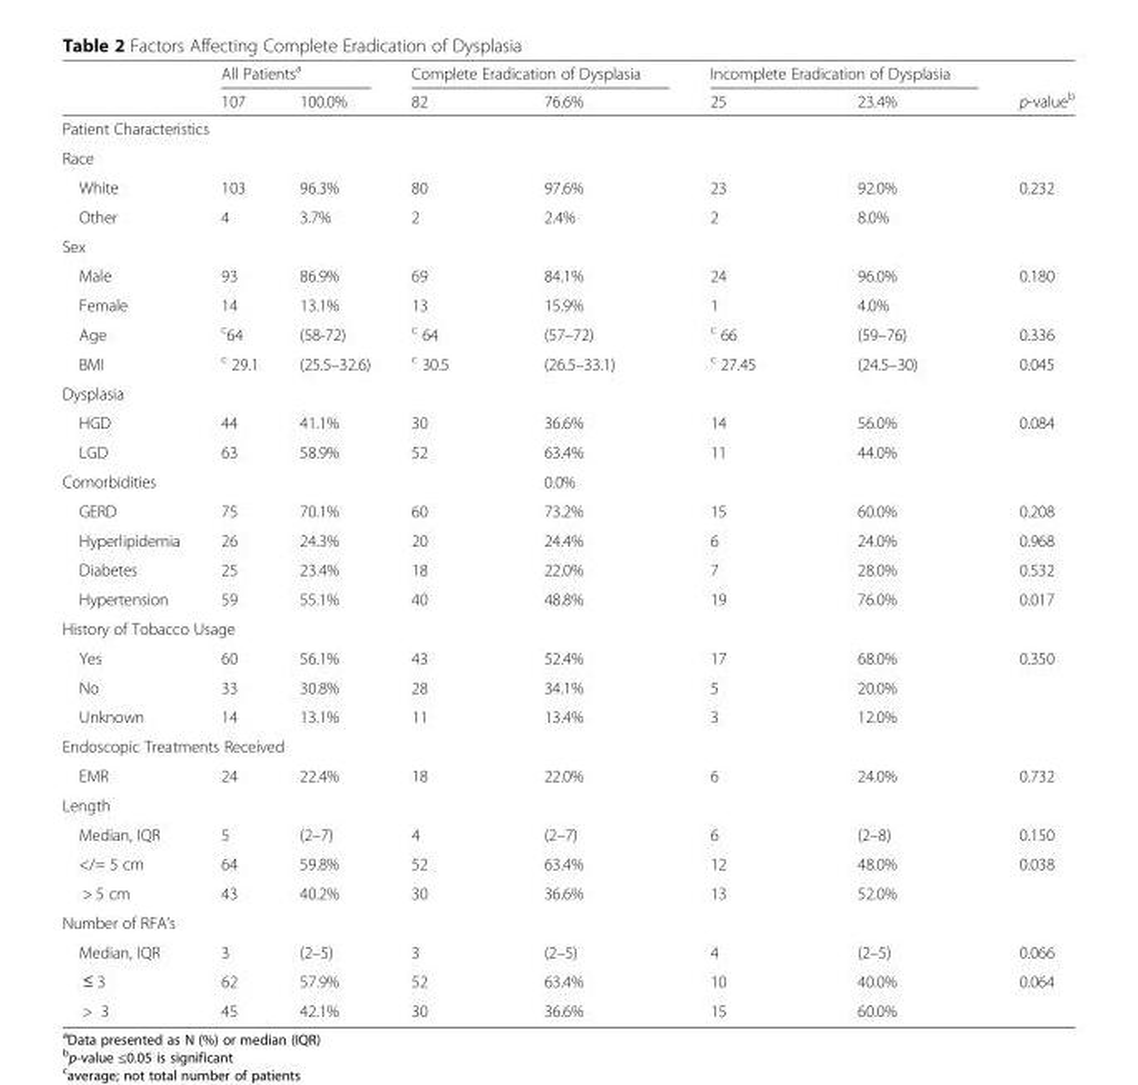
<table><thead><tr><td rowspan="2"></td><td colspan="2">All Patients<sup>a</sup></td><td colspan="2">Complete Eradication of Dysplasia</td><td colspan="2">Incomplete Eradication of Dysplasia</td><td rowspan="2">p-value<sup>b</sup></td></tr><tr><td>107</td><td>100.0%</td><td>82</td><td>76.6%</td><td>25</td><td>23.4%</td></tr></thead><tbody><tr><td colspan="8">Patient Characteristics</td></tr><tr><td colspan="8">Race</td></tr><tr><td>White</td><td>103</td><td>96.3%</td><td>80</td><td>97.6%</td><td>23</td><td>92.0%</td><td rowspan="2">0.232</td></tr><tr><td>Other</td><td>4</td><td>3.7%</td><td>2</td><td>2.4%</td><td>2</td><td>8.0%</td></tr><tr><td colspan="8">Sex</td></tr><tr><td>Male</td><td>93</td><td>86.9%</td><td>69</td><td>84.1%</td><td>24</td><td>96.0%</td><td rowspan="2">0.180</td></tr><tr><td>Female</td><td>14</td><td>13.1%</td><td>13</td><td>15.9%</td><td>1</td><td>4.0%</td></tr><tr><td>Age</td><td><sup>c</sup>64</td><td>(58-72)</td><td><sup>c</sup> 64</td><td>(57–72)</td><td><sup>c</sup> 66</td><td>(59–76)</td><td>0.336</td></tr><tr><td>BMI</td><td><sup>c</sup> 29.1</td><td>(25.5–32.6)</td><td><sup>c</sup> 30.5</td><td>(26.5–33.1)</td><td><sup>c</sup> 27.45</td><td>(24.5–30)</td><td>0.045</td></tr><tr><td colspan="8">Dysplasia</td></tr><tr><td>HGD</td><td>44</td><td>41.1%</td><td>30</td><td>36.6%</td><td>14</td><td>56.0%</td><td rowspan="2">0.084</td></tr><tr><td>LGD</td><td>63</td><td>58.9%</td><td>52</td><td>63.4%</td><td>11</td><td>44.0%</td></tr><tr><td>Comorbidities</td><td></td><td></td><td></td><td>0.0%</td><td></td><td></td><td></td></tr><tr><td>GERD</td><td>75</td><td>70.1%</td><td>60</td><td>73.2%</td><td>15</td><td>60.0%</td><td>0.208</td></tr><tr><td>Hyperlipidemia</td><td>26</td><td>24.3%</td><td>20</td><td>24.4%</td><td>6</td><td>24.0%</td><td>0.968</td></tr><tr><td>Diabetes</td><td>25</td><td>23.4%</td><td>18</td><td>22.0%</td><td>7</td><td>28.0%</td><td>0.532</td></tr><tr><td>Hypertension</td><td>59</td><td>55.1%</td><td>40</td><td>48.8%</td><td>19</td><td>76.0%</td><td>0.017</td></tr><tr><td colspan="8">History of Tobacco Usage</td></tr><tr><td>Yes</td><td>60</td><td>56.1%</td><td>43</td><td>52.4%</td><td>17</td><td>68.0%</td><td rowspan="3">0.350</td></tr><tr><td>No</td><td>33</td><td>30.8%</td><td>28</td><td>34.1%</td><td>5</td><td>20.0%</td></tr><tr><td>Unknown</td><td>14</td><td>13.1%</td><td>11</td><td>13.4%</td><td>3</td><td>12.0%</td></tr><tr><td colspan="8">Endoscopic Treatments Received</td></tr><tr><td>EMR</td><td>24</td><td>22.4%</td><td>18</td><td>22.0%</td><td>6</td><td>24.0%</td><td>0.732</td></tr><tr><td colspan="8">Length</td></tr><tr><td>Median, IQR</td><td>5</td><td>(2–7)</td><td>4</td><td>(2–7)</td><td>6</td><td>(2–8)</td><td>0.150</td></tr><tr><td>&lt;/= 5 cm</td><td>64</td><td>59.8%</td><td>52</td><td>63.4%</td><td>12</td><td>48.0%</td><td rowspan="2">0.038</td></tr><tr><td>&gt; 5 cm</td><td>43</td><td>40.2%</td><td>30</td><td>36.6%</td><td>13</td><td>52.0%</td></tr><tr><td colspan="8">Number of RFA’s</td></tr><tr><td>Median, IQR</td><td>3</td><td>(2–5)</td><td>3</td><td>(2–5)</td><td>4</td><td>(2–5)</td><td>0.066</td></tr><tr><td>≤ 3</td><td>62</td><td>57.9%</td><td>52</td><td>63.4%</td><td>10</td><td>40.0%</td><td>0.064</td></tr><tr><td>&gt; 3</td><td>45</td><td>42.1%</td><td>30</td><td>36.6%</td><td>15</td><td>60.0%</td><td></td></tr></tbody></table>